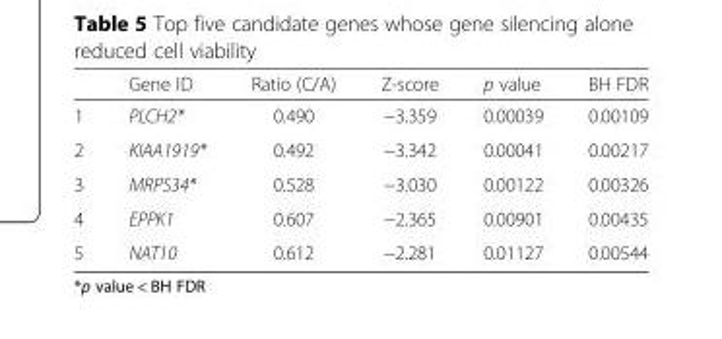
<table><thead><tr><td></td><td>Gene ID</td><td>Ratio (C/A)</td><td>Z-score</td><td>p value</td><td>BH FDR</td></tr></thead><tbody><tr><td>1</td><td>PLCH2*</td><td>0.490</td><td>−3.359</td><td>0.00039</td><td>0.00109</td></tr><tr><td>2</td><td>KIAA1919*</td><td>0.492</td><td>−3.342</td><td>0.00041</td><td>0.00217</td></tr><tr><td>3</td><td>MRPS34*</td><td>0.528</td><td>−3.030</td><td>0.00122</td><td>0.00326</td></tr><tr><td>4</td><td>EPPK1</td><td>0.607</td><td>−2.365</td><td>0.00901</td><td>0.00435</td></tr><tr><td>5</td><td>NAT10</td><td>0.612</td><td>−2.281</td><td>0.01127</td><td>0.00544</td></tr></tbody></table>